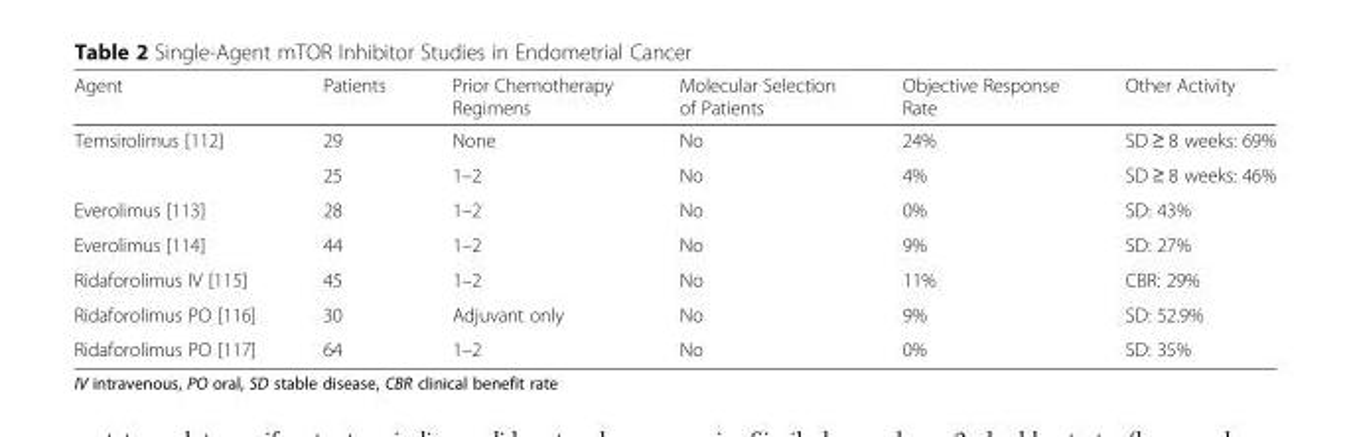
<table><thead><tr><td>Agent</td><td>Patients</td><td>Prior Chemotherapy Regimens</td><td>Molecular Selection of Patients</td><td>Objective Response Rate</td><td>Other Activity</td></tr></thead><tbody><tr><td rowspan="2">Temsirolimus [112]</td><td>29</td><td>None</td><td>No</td><td>24%</td><td>SD ≥ 8 weeks: 69%</td></tr><tr><td>25</td><td>1–2</td><td>No</td><td>4%</td><td>SD ≥ 8 weeks: 46%</td></tr><tr><td>Everolimus [113]</td><td>28</td><td>1–2</td><td>No</td><td>0%</td><td>SD: 43%</td></tr><tr><td>Everolimus [114]</td><td>44</td><td>1–2</td><td>No</td><td>9%</td><td>SD: 27%</td></tr><tr><td>Ridaforolimus IV [115]</td><td>45</td><td>1–2</td><td>No</td><td>11%</td><td>CBR: 29%</td></tr><tr><td>Ridaforolimus PO [116]</td><td>30</td><td>Adjuvant only</td><td>No</td><td>9%</td><td>SD: 52.9%</td></tr><tr><td>Ridaforolimus PO [117]</td><td>64</td><td>1–2</td><td>No</td><td>0%</td><td>SD: 35%</td></tr></tbody></table>